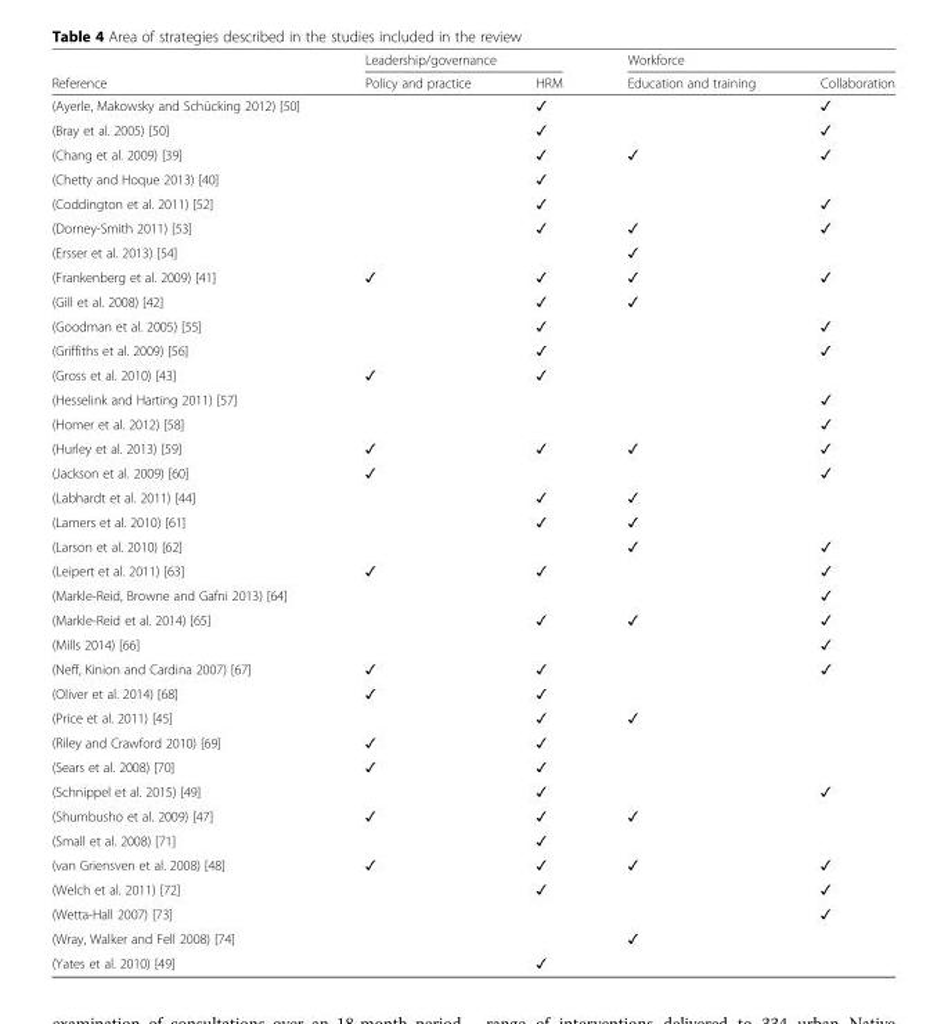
<table><thead><tr><td rowspan="2">Reference</td><td colspan="2">Leadership/governance</td><td colspan="2">Workforce</td></tr><tr><td>Policy and practice</td><td>HRM</td><td>Education and training</td><td>Collaboration</td></tr></thead><tbody><tr><td>(Ayerle, Makowsky and Schücking 2012) [50]</td><td></td><td>✓</td><td></td><td>✓</td></tr><tr><td>(Bray et al. 2005) [50]</td><td></td><td>✓</td><td></td><td>✓</td></tr><tr><td>(Chang et al. 2009) [39]</td><td></td><td>✓</td><td>✓</td><td>✓</td></tr><tr><td>(Chetty and Hoque 2013) [40]</td><td></td><td>✓</td><td></td><td></td></tr><tr><td>(Coddington et al. 2011) [52]</td><td></td><td>✓</td><td></td><td>✓</td></tr><tr><td>(Dorney-Smith 2011) [53]</td><td></td><td>✓</td><td>✓</td><td>✓</td></tr><tr><td>(Ersser et al. 2013) [54]</td><td></td><td></td><td>✓</td><td></td></tr><tr><td>(Frankenberg et al. 2009) [41]</td><td>✓</td><td>✓</td><td>✓</td><td>✓</td></tr><tr><td>(Gill et al. 2008) [42]</td><td></td><td>✓</td><td>✓</td><td></td></tr><tr><td>(Goodman et al. 2005) [55]</td><td></td><td>✓</td><td></td><td>✓</td></tr><tr><td>(Griffiths et al. 2009) [56]</td><td></td><td>✓</td><td></td><td>✓</td></tr><tr><td>(Gross et al. 2010) [43]</td><td>✓</td><td>✓</td><td></td><td></td></tr><tr><td>(Hesselink and Harting 2011) [57]</td><td></td><td></td><td></td><td>✓</td></tr><tr><td>(Homer et al. 2012) [58]</td><td></td><td></td><td></td><td>✓</td></tr><tr><td>(Hurley et al. 2013) [59]</td><td>✓</td><td>✓</td><td>✓</td><td>✓</td></tr><tr><td>(Jackson et al. 2009) [60]</td><td>✓</td><td></td><td></td><td>✓</td></tr><tr><td>(Labhardt et al. 2011) [44]</td><td></td><td>✓</td><td>✓</td><td></td></tr><tr><td>(Lamers et al. 2010) [61]</td><td></td><td>✓</td><td>✓</td><td></td></tr><tr><td>(Larson et al. 2010) [62]</td><td></td><td></td><td>✓</td><td>✓</td></tr><tr><td>(Leipert et al. 2011) [63]</td><td>✓</td><td>✓</td><td></td><td>✓</td></tr><tr><td>(Markle-Reid, Browne and Gafni 2013) [64]</td><td></td><td></td><td></td><td>✓</td></tr><tr><td>(Markle-Reid et al. 2014) [65]</td><td></td><td>✓</td><td>✓</td><td>✓</td></tr><tr><td>(Mills 2014) [66]</td><td></td><td></td><td></td><td>✓</td></tr><tr><td>(Neff, Kinion and Cardina 2007) [67]</td><td>✓</td><td>✓</td><td></td><td>✓</td></tr><tr><td>(Oliver et al. 2014) [68]</td><td>✓</td><td>✓</td><td></td><td></td></tr><tr><td>(Price et al. 2011) [45]</td><td></td><td>✓</td><td>✓</td><td></td></tr><tr><td>(Riley and Crawford 2010) [69]</td><td>✓</td><td>✓</td><td></td><td></td></tr><tr><td>(Sears et al. 2008) [70]</td><td>✓</td><td>✓</td><td></td><td></td></tr><tr><td>(Schnippel et al. 2015) [49]</td><td></td><td>✓</td><td></td><td>✓</td></tr><tr><td>(Shumbusho et al. 2009) [47]</td><td>✓</td><td>✓</td><td>✓</td><td></td></tr><tr><td>(Small et al. 2008) [71]</td><td></td><td>✓</td><td></td><td></td></tr><tr><td>(van Griensven et al. 2008) [48]</td><td>✓</td><td>✓</td><td>✓</td><td>✓</td></tr><tr><td>(Welch et al. 2011) [72]</td><td></td><td>✓</td><td></td><td>✓</td></tr><tr><td>(Wetta-Hall 2007) [73]</td><td></td><td></td><td></td><td>✓</td></tr><tr><td>(Wray, Walker and Fell 2008) [74]</td><td></td><td></td><td>✓</td><td></td></tr><tr><td>(Yates et al. 2010) [49]</td><td></td><td>✓</td><td></td><td></td></tr></tbody></table>